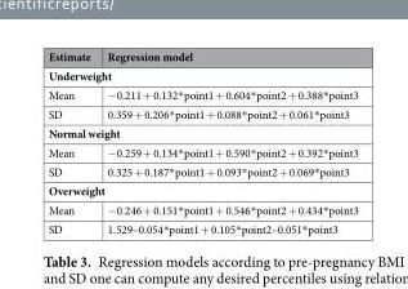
<table><thead><tr><td>Estimate</td><td>Regression model</td></tr></thead><tbody><tr><td colspan="2">Underweight</td></tr><tr><td>Mean</td><td>−0.211 + 0.132*point1 + 0.604*point2 + 0.388*point3</td></tr><tr><td>SD</td><td>0.359 + 0.206*point1 + 0.088*point2 + 0.061*point3</td></tr><tr><td colspan="2">Normal weight</td></tr><tr><td>Mean</td><td>−0.259 + 0.134*point1 + 0.590*point2 + 0.392*point3</td></tr><tr><td>SD</td><td>0.325 + 0.187*point1 + 0.093*point2 + 0.069*point3</td></tr><tr><td colspan="2">Overweight</td></tr><tr><td>Mean</td><td>−0.246 + 0.151*point1 + 0.546*point2 + 0.434*point3</td></tr><tr><td>SD</td><td>1.529–0.054*point1 + 0.105*point2–0.051*point3</td></tr></tbody></table>